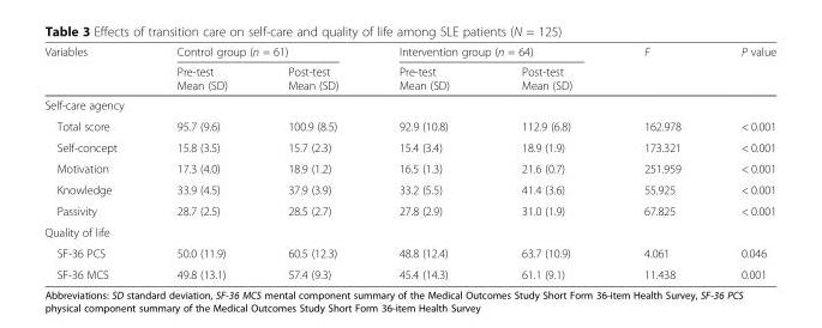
<table><thead><tr><td rowspan="2">Variables</td><td colspan="2">Control group (n = 61)</td><td colspan="2">Intervention group (n = 64)</td><td rowspan="2">F</td><td rowspan="2">P value</td></tr><tr><td>Pre-test Mean (SD)</td><td>Post-test Mean (SD)</td><td>Pre-test Mean (SD)</td><td>Post-test Mean (SD)</td></tr></thead><tbody><tr><td colspan="7">Self-care agency</td></tr><tr><td>Total score</td><td>95.7 (9.6)</td><td>100.9 (8.5)</td><td>92.9 (10.8)</td><td>112.9 (6.8)</td><td>162.978</td><td>&lt; 0.001</td></tr><tr><td>Self-concept</td><td>15.8 (3.5)</td><td>15.7 (2.3)</td><td>15.4 (3.4)</td><td>18.9 (1.9)</td><td>173.321</td><td>&lt; 0.001</td></tr><tr><td>Motivation</td><td>17.3 (4.0)</td><td>18.9 (1.2)</td><td>16.5 (1.3)</td><td>21.6 (0.7)</td><td>251.959</td><td>&lt; 0.001</td></tr><tr><td>Knowledge</td><td>33.9 (4.5)</td><td>37.9 (3.9)</td><td>33.2 (5.5)</td><td>41.4 (3.6)</td><td>55.925</td><td>&lt; 0.001</td></tr><tr><td>Passivity</td><td>28.7 (2.5)</td><td>28.5 (2.7)</td><td>27.8 (2.9)</td><td>31.0 (1.9)</td><td>67.825</td><td>&lt; 0.001</td></tr><tr><td colspan="7">Quality of life</td></tr><tr><td>SF-36 PCS</td><td>50.0 (11.9)</td><td>60.5 (12.3)</td><td>48.8 (12.4)</td><td>63.7 (10.9)</td><td>4.061</td><td>0.046</td></tr><tr><td>SF-36 MCS</td><td>49.8 (13.1)</td><td>57.4 (9.3)</td><td>45.4 (14.3)</td><td>61.1 (9.1)</td><td>11.438</td><td>0.001</td></tr></tbody></table>